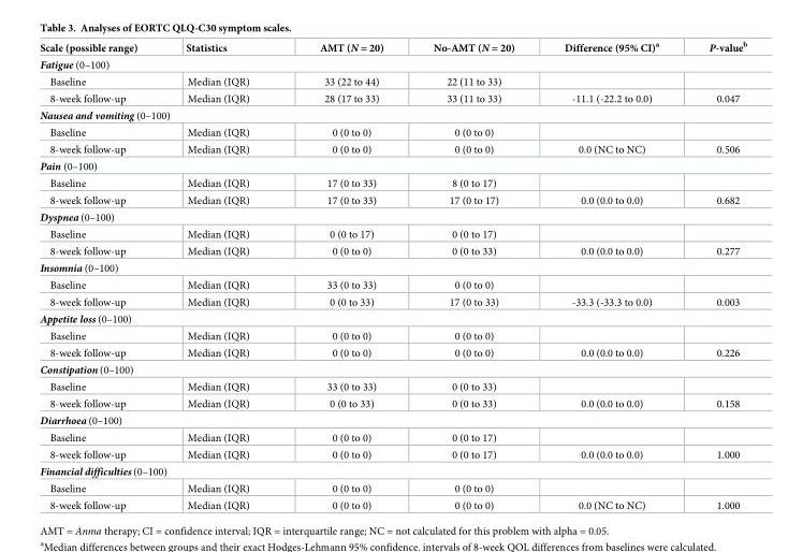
<table><thead><tr><td>Scale (possible range)</td><td>Statistics</td><td>AMT (N = 20)</td><td>No-AMT (N = 20)</td><td>Difference (95% CI)<sup>a</sup></td><td>P-value<sup>b</sup></td></tr></thead><tbody><tr><td colspan="6">Fatigue (0–100)</td></tr><tr><td>Baseline</td><td>Median (IQR)</td><td>33 (22 to 44)</td><td>22 (11 to 33)</td><td></td><td></td></tr><tr><td>8-week follow-up</td><td>Median (IQR)</td><td>28 (17 to 33)</td><td>33 (11 to 33)</td><td>-11.1 (-22.2 to 0.0)</td><td>0.047</td></tr><tr><td colspan="6">Nausea and vomiting (0–100)</td></tr><tr><td>Baseline</td><td>Median (IQR)</td><td>0 (0 to 0)</td><td>0 (0 to 0)</td><td></td><td></td></tr><tr><td>8-week follow-up</td><td>Median (IQR)</td><td>0 (0 to 0)</td><td>0 (0 to 0)</td><td>0.0 (NC to NC)</td><td>0.506</td></tr><tr><td colspan="6">Pain (0–100)</td></tr><tr><td>Baseline</td><td>Median (IQR)</td><td>17 (0 to 33)</td><td>8 (0 to 17)</td><td></td><td></td></tr><tr><td>8-week follow-up</td><td>Median (IQR)</td><td>17 (0 to 33)</td><td>17 (0 to 17)</td><td>0.0 (0.0 to 0.0)</td><td>0.682</td></tr><tr><td colspan="6">Dyspnea (0–100)</td></tr><tr><td>Baseline</td><td>Median (IQR)</td><td>0 (0 to 17)</td><td>0 (0 to 17)</td><td></td><td></td></tr><tr><td>8-week follow-up</td><td>Median (IQR)</td><td>0 (0 to 0)</td><td>0 (0 to 33)</td><td>0.0 (0.0 to 0.0)</td><td>0.277</td></tr><tr><td colspan="6">Insomnia (0–100)</td></tr><tr><td>Baseline</td><td>Median (IQR)</td><td>33 (0 to 33)</td><td>0 (0 to 0)</td><td></td><td></td></tr><tr><td>8-week follow-up</td><td>Median (IQR)</td><td>0 (0 to 33)</td><td>17 (0 to 33)</td><td>-33.3 (-33.3 to 0.0)</td><td>0.003</td></tr><tr><td colspan="6">Appetite loss (0–100)</td></tr><tr><td>Baseline</td><td>Median (IQR)</td><td>0 (0 to 0)</td><td>0 (0 to 0)</td><td></td><td></td></tr><tr><td>8-week follow-up</td><td>Median (IQR)</td><td>0 (0 to 0)</td><td>0 (0 to 0)</td><td>0.0 (0.0 to 0.0)</td><td>0.226</td></tr><tr><td colspan="6">Constipation (0–100)</td></tr><tr><td>Baseline</td><td>Median (IQR)</td><td>33 (0 to 33)</td><td>0 (0 to 33)</td><td></td><td></td></tr><tr><td>8-week follow-up</td><td>Median (IQR)</td><td>0 (0 to 33)</td><td>0 (0 to 33)</td><td>0.0 (0.0 to 0.0)</td><td>0.158</td></tr><tr><td colspan="6">Diarrhoea (0–100)</td></tr><tr><td>Baseline</td><td>Median (IQR)</td><td>0 (0 to 0)</td><td>0 (0 to 17)</td><td></td><td></td></tr><tr><td>8-week follow-up</td><td>Median (IQR)</td><td>0 (0 to 0)</td><td>0 (0 to 17)</td><td>0.0 (0.0 to 0.0)</td><td>1.000</td></tr><tr><td colspan="6">Financial difficulties (0–100)</td></tr><tr><td>Baseline</td><td>Median (IQR)</td><td>0 (0 to 0)</td><td>0 (0 to 0)</td><td></td><td></td></tr><tr><td>8-week follow-up</td><td>Median (IQR)</td><td>0 (0 to 0)</td><td>0 (0 to 0)</td><td>0.0 (NC to NC)</td><td>1.000</td></tr></tbody></table>